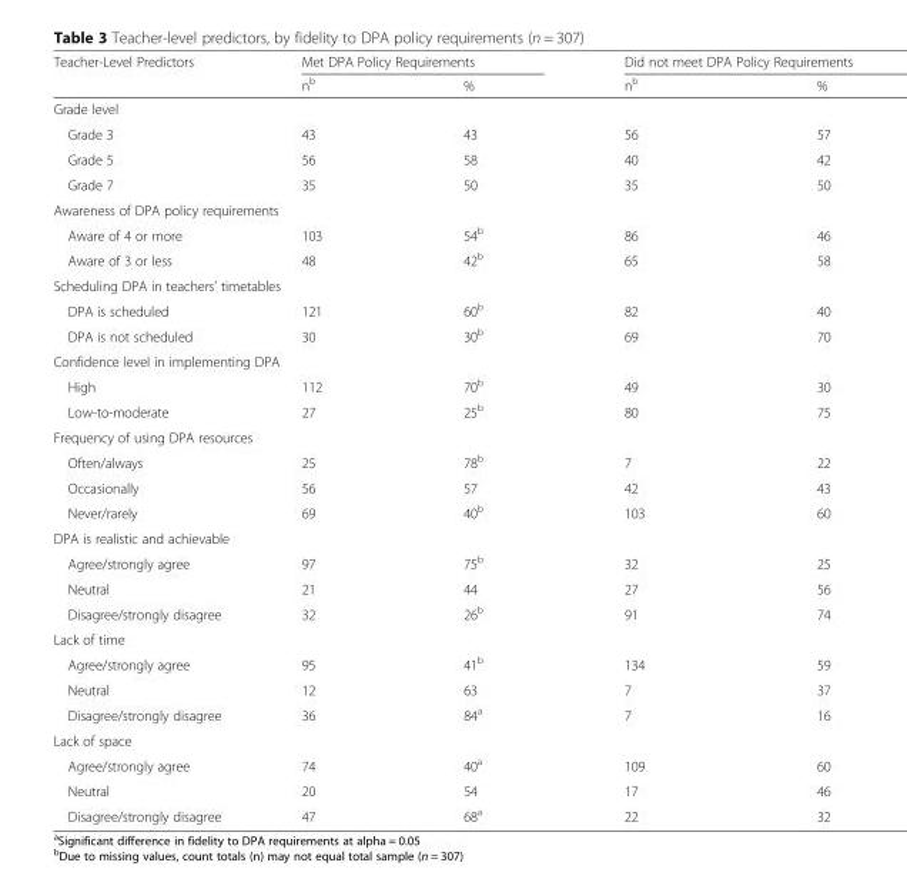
<table><thead><tr><td rowspan="2">Teacher-Level Predictors</td><td colspan="2">Met DPA Policy Requirements</td><td colspan="2">Did not meet DPA Policy Requirements</td></tr><tr><td>n<sup>b</sup></td><td>%</td><td>n<sup>b</sup></td><td>%</td></tr></thead><tbody><tr><td colspan="5">Grade level</td></tr><tr><td>Grade 3</td><td>43</td><td>43</td><td>56</td><td>57</td></tr><tr><td>Grade 5</td><td>56</td><td>58</td><td>40</td><td>42</td></tr><tr><td>Grade 7</td><td>35</td><td>50</td><td>35</td><td>50</td></tr><tr><td colspan="5">Awareness of DPA policy requirements</td></tr><tr><td>Aware of 4 or more</td><td>103</td><td>54<sup>b</sup></td><td>86</td><td>46</td></tr><tr><td>Aware of 3 or less</td><td>48</td><td>42<sup>b</sup></td><td>65</td><td>58</td></tr><tr><td colspan="5">Scheduling DPA in teachers’ timetables</td></tr><tr><td>DPA is scheduled</td><td>121</td><td>60<sup>b</sup></td><td>82</td><td>40</td></tr><tr><td>DPA is not scheduled</td><td>30</td><td>30<sup>b</sup></td><td>69</td><td>70</td></tr><tr><td colspan="5">Confidence level in implementing DPA</td></tr><tr><td>High</td><td>112</td><td>70<sup>b</sup></td><td>49</td><td>30</td></tr><tr><td>Low-to-moderate</td><td>27</td><td>25<sup>b</sup></td><td>80</td><td>75</td></tr><tr><td colspan="5">Frequency of using DPA resources</td></tr><tr><td>Often/always</td><td>25</td><td>78<sup>b</sup></td><td>7</td><td>22</td></tr><tr><td>Occasionally</td><td>56</td><td>57</td><td>42</td><td>43</td></tr><tr><td>Never/rarely</td><td>69</td><td>40<sup>b</sup></td><td>103</td><td>60</td></tr><tr><td colspan="5">DPA is realistic and achievable</td></tr><tr><td>Agree/strongly agree</td><td>97</td><td>75<sup>b</sup></td><td>32</td><td>25</td></tr><tr><td>Neutral</td><td>21</td><td>44</td><td>27</td><td>56</td></tr><tr><td>Disagree/strongly disagree</td><td>32</td><td>26<sup>b</sup></td><td>91</td><td>74</td></tr><tr><td colspan="5">Lack of time</td></tr><tr><td>Agree/strongly agree</td><td>95</td><td>41<sup>b</sup></td><td>134</td><td>59</td></tr><tr><td>Neutral</td><td>12</td><td>63</td><td>7</td><td>37</td></tr><tr><td>Disagree/strongly disagree</td><td>36</td><td>84<sup>a</sup></td><td>7</td><td>16</td></tr><tr><td colspan="5">Lack of space</td></tr><tr><td>Agree/strongly agree</td><td>74</td><td>40<sup>a</sup></td><td>109</td><td>60</td></tr><tr><td>Neutral</td><td>20</td><td>54</td><td>17</td><td>46</td></tr><tr><td>Disagree/strongly disagree</td><td>47</td><td>68<sup>a</sup></td><td>22</td><td>32</td></tr></tbody></table>